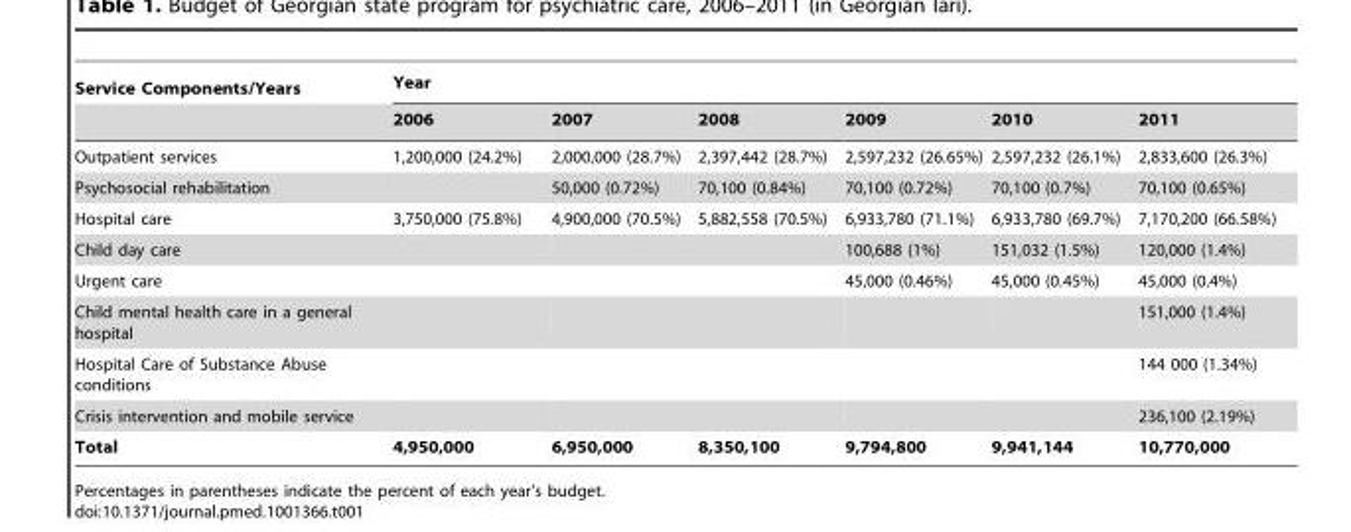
<table><thead><tr><td rowspan="2">Service Components/Years</td><td colspan="6">Year</td></tr><tr><td>2006</td><td>2007</td><td>2008</td><td>2009</td><td>2010</td><td>2011</td></tr></thead><tbody><tr><td>Outpatient services</td><td>1,200,000 (24.2%)</td><td>2,000,000 (28.7%)</td><td>2,397,442 (28.7%)</td><td>2,597,232 (26.65%)</td><td>2,597,232 (26.1%)</td><td>2,833,600 (26.3%)</td></tr><tr><td>Psychosocial rehabilitation</td><td></td><td>50,000 (0.72%)</td><td>70,100 (0.84%)</td><td>70,100 (0.72%)</td><td>70,100 (0.7%)</td><td>70,100 (0.65%)</td></tr><tr><td>Hospital care</td><td>3,750,000 (75.8%)</td><td>4,900,000 (70.5%)</td><td>5,882,558 (70.5%)</td><td>6,933,780 (71.1%)</td><td>6,933,780 (69.7%)</td><td>7,170,200 (66.58%)</td></tr><tr><td>Child day care</td><td></td><td></td><td></td><td>100,688 (1%)</td><td>151,032 (1.5%)</td><td>120,000 (1.4%)</td></tr><tr><td>Urgent care</td><td></td><td></td><td></td><td>45,000 (0.46%)</td><td>45,000 (0.45%)</td><td>45,000 (0.4%)</td></tr><tr><td>Child mental health care in a general hospital</td><td></td><td></td><td></td><td></td><td></td><td>151,000 (1.4%)</td></tr><tr><td>Hospital Care of Substance Abuse conditions</td><td></td><td></td><td></td><td></td><td></td><td>144 000 (1.34%)</td></tr><tr><td>Crisis intervention and mobile service</td><td></td><td></td><td></td><td></td><td></td><td>236,100 (2.19%)</td></tr><tr><td>Total</td><td>4,950,000</td><td>6,950,000</td><td>8,350,100</td><td>9,794,800</td><td>9,941,144</td><td>10,770,000</td></tr></tbody></table>